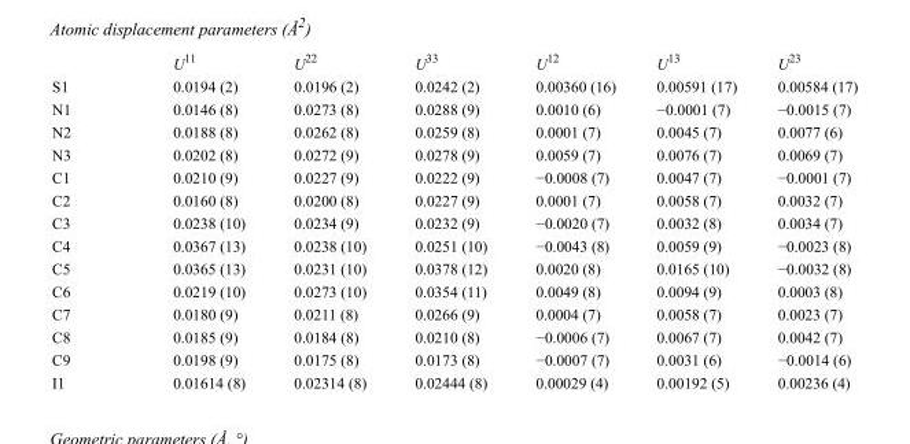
<table><thead><tr><td></td><td>U<sup>11</sup></td><td>U<sup>22</sup></td><td>U<sup>33</sup></td><td>U<sup>12</sup></td><td>U<sup>13</sup></td><td>U<sup>23</sup></td></tr></thead><tbody><tr><td>S1</td><td>0.0194 (2)</td><td>0.0196 (2)</td><td>0.0242 (2)</td><td>0.00360 (16)</td><td>0.00591 (17)</td><td>0.00584 (17)</td></tr><tr><td>N1</td><td>0.0146 (8)</td><td>0.0273 (8)</td><td>0.0288 (9)</td><td>0.0010 (6)</td><td>−0.0001 (7)</td><td>−0.0015 (7)</td></tr><tr><td>N2</td><td>0.0188 (8)</td><td>0.0262 (8)</td><td>0.0259 (8)</td><td>0.0001 (7)</td><td>0.0045 (7)</td><td>0.0077 (6)</td></tr><tr><td>N3</td><td>0.0202 (8)</td><td>0.0272 (9)</td><td>0.0278 (9)</td><td>0.0059 (7)</td><td>0.0076 (7)</td><td>0.0069 (7)</td></tr><tr><td>C1</td><td>0.0210 (9)</td><td>0.0227 (9)</td><td>0.0222 (9)</td><td>−0.0008 (7)</td><td>0.0047 (7)</td><td>−0.0001 (7)</td></tr><tr><td>C2</td><td>0.0160 (8)</td><td>0.0200 (8)</td><td>0.0227 (9)</td><td>0.0001 (7)</td><td>0.0058 (7)</td><td>0.0032 (7)</td></tr><tr><td>C3</td><td>0.0238 (10)</td><td>0.0234 (9)</td><td>0.0232 (9)</td><td>−0.0020 (7)</td><td>0.0032 (8)</td><td>0.0034 (7)</td></tr><tr><td>C4</td><td>0.0367 (13)</td><td>0.0238 (10)</td><td>0.0251 (10)</td><td>−0.0043 (8)</td><td>0.0059 (9)</td><td>−0.0023 (8)</td></tr><tr><td>C5</td><td>0.0365 (13)</td><td>0.0231 (10)</td><td>0.0378 (12)</td><td>0.0020 (8)</td><td>0.0165 (10)</td><td>−0.0032 (8)</td></tr><tr><td>C6</td><td>0.0219 (10)</td><td>0.0273 (10)</td><td>0.0354 (11)</td><td>0.0049 (8)</td><td>0.0094 (9)</td><td>0.0003 (8)</td></tr><tr><td>C7</td><td>0.0180 (9)</td><td>0.0211 (8)</td><td>0.0266 (9)</td><td>0.0004 (7)</td><td>0.0058 (7)</td><td>0.0023 (7)</td></tr><tr><td>C8</td><td>0.0185 (9)</td><td>0.0184 (8)</td><td>0.0210 (8)</td><td>−0.0006 (7)</td><td>0.0067 (7)</td><td>0.0042 (7)</td></tr><tr><td>C9</td><td>0.0198 (9)</td><td>0.0175 (8)</td><td>0.0173 (8)</td><td>−0.0007 (7)</td><td>0.0031 (6)</td><td>−0.0014 (6)</td></tr><tr><td>I1</td><td>0.01614 (8)</td><td>0.02314 (8)</td><td>0.02444 (8)</td><td>0.00029 (4)</td><td>0.00192 (5)</td><td>0.00236 (4)</td></tr></tbody></table>